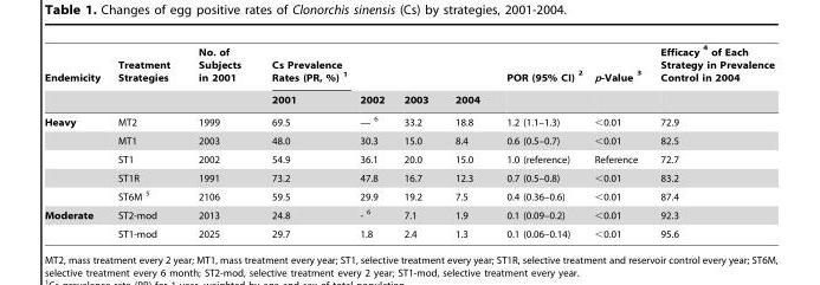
<table><thead><tr><td rowspan="2">Endemicity</td><td rowspan="2">Treatment Strategies</td><td rowspan="2">No. of Subjects in 2001</td><td rowspan="2">Cs Prevalence Rates (PR, %) 1 2001</td><td rowspan="2">2002</td><td rowspan="2">2003</td><td rowspan="2">2004</td><td rowspan="2">POR (95% CI) 2</td><td rowspan="2">p-Value 3</td><td rowspan="2">Efficacy 4 of Each Strategy in Prevalence Control in 2004</td></tr><tr></tr></thead><tbody><tr><td rowspan="5">Heavy</td><td>MT2</td><td>1999</td><td>69.5</td><td>— 6</td><td>33.2</td><td>18.8</td><td>1.2 (1.1–1.3)</td><td>&lt;0.01</td><td>72.9</td></tr><tr><td>MT1</td><td>2003</td><td>48.0</td><td>30.3</td><td>15.0</td><td>8.4</td><td>0.6 (0.5–0.7)</td><td>&lt;0.01</td><td>82.5</td></tr><tr><td>ST1</td><td>2002</td><td>54.9</td><td>36.1</td><td>20.0</td><td>15.0</td><td>1.0 (reference)</td><td>Reference</td><td>72.7</td></tr><tr><td>ST1R</td><td>1991</td><td>73.2</td><td>47.8</td><td>16.7</td><td>12.3</td><td>0.7 (0.5–0.8)</td><td>&lt;0.01</td><td>83.2</td></tr><tr><td>ST6M 5</td><td>2106</td><td>59.5</td><td>29.9</td><td>19.2</td><td>7.5</td><td>0.4 (0.36–0.6)</td><td>&lt;0.01</td><td>87.4</td></tr><tr><td rowspan="2">Moderate</td><td>ST2-mod</td><td>2013</td><td>24.8</td><td>- 6</td><td>7.1</td><td>1.9</td><td>0.1 (0.09–0.2)</td><td>&lt;0.01</td><td>92.3</td></tr><tr><td>ST1-mod</td><td>2025</td><td>29.7</td><td>1.8</td><td>2.4</td><td>1.3</td><td>0.1 (0.06–0.14)</td><td>&lt;0.01</td><td>95.6</td></tr></tbody></table>